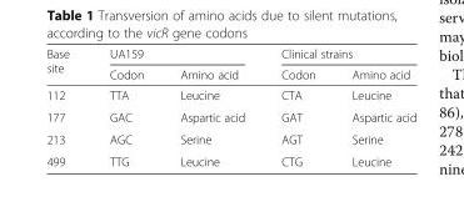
<table><thead><tr><td rowspan="2">Base site</td><td colspan="2">UA159</td><td colspan="2">Clinical strains</td></tr><tr><td>Codon</td><td>Amino acid</td><td>Codon</td><td>Amino acid</td></tr></thead><tbody><tr><td>112</td><td>TTA</td><td>Leucine</td><td>CTA</td><td>Leucine</td></tr><tr><td>177</td><td>GAC</td><td>Aspartic acid</td><td>GAT</td><td>Aspartic acid</td></tr><tr><td>213</td><td>AGC</td><td>Serine</td><td>AGT</td><td>Serine</td></tr><tr><td>499</td><td>TTG</td><td>Leucine</td><td>CTG</td><td>Leucine</td></tr></tbody></table>